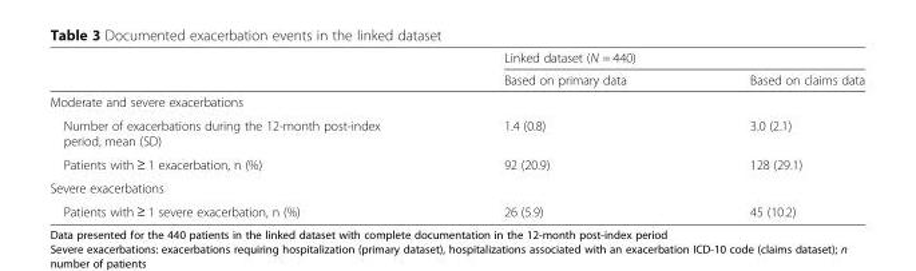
<table><thead><tr><td rowspan="2"></td><td colspan="2">Linked dataset (N = 440)</td></tr><tr><td>Based on primary data</td><td>Based on claims data</td></tr></thead><tbody><tr><td colspan="3">Moderate and severe exacerbations</td></tr><tr><td>Number of exacerbations during the 12-month post-index period, mean (SD)</td><td>1.4 (0.8)</td><td>3.0 (2.1)</td></tr><tr><td>Patients with ≥ 1 exacerbation, n (%)</td><td>92 (20.9)</td><td>128 (29.1)</td></tr><tr><td colspan="3">Severe exacerbations</td></tr><tr><td>Patients with ≥ 1 severe exacerbation, n (%)</td><td>26 (5.9)</td><td>45 (10.2)</td></tr></tbody></table>